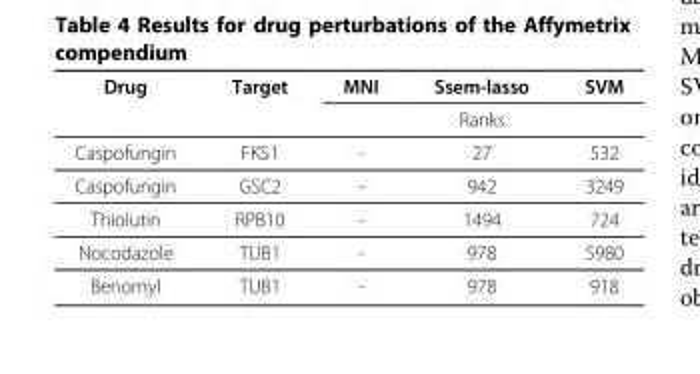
<table><thead><tr><td rowspan="2">Drug</td><td rowspan="2">Target</td><td rowspan="2">MNI</td><td rowspan="2">Ssem-lasso Ranks</td><td rowspan="2">SVM</td></tr><tr></tr></thead><tbody><tr><td>Caspofungin</td><td>FKS1</td><td>-</td><td>27</td><td>532</td></tr><tr><td>Caspofungin</td><td>GSC2</td><td>-</td><td>942</td><td>3249</td></tr><tr><td>Thiolutin</td><td>RPB10</td><td>-</td><td>1494</td><td>724</td></tr><tr><td>Nocodazole</td><td>TUB1</td><td>-</td><td>978</td><td>5980</td></tr><tr><td>Benomyl</td><td>TUB1</td><td>-</td><td>978</td><td>918</td></tr></tbody></table>